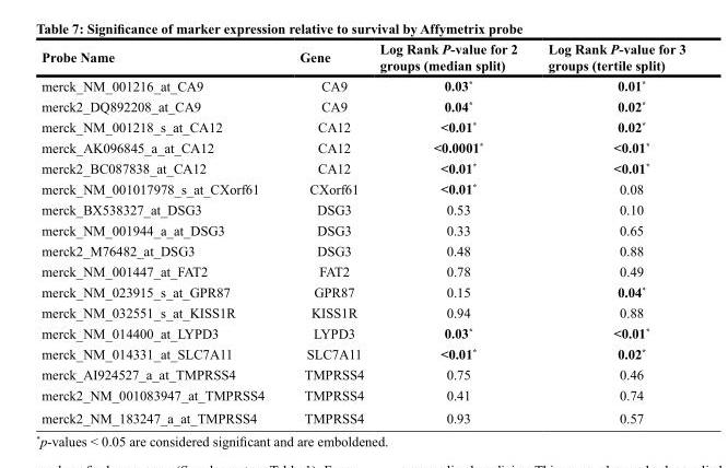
<table><thead><tr><td>Probe Name</td><td>Gene</td><td>Log Rank P-value for 2 groups (median split)</td><td>Log Rank P-value for 3 groups (tertile split)</td></tr></thead><tbody><tr><td>merck_NM_001216_at_CA9</td><td>CA9</td><td>0.03*</td><td>0.01*</td></tr><tr><td>merck2_DQ892208_at_CA9</td><td>CA9</td><td>0.04*</td><td>0.02*</td></tr><tr><td>merck_NM_001218_s_at_CA12</td><td>CA12</td><td>&lt;0.01*</td><td>0.02*</td></tr><tr><td>merck_AK096845_a_at_CA12</td><td>CA12</td><td>&lt;0.0001*</td><td>&lt;0.01*</td></tr><tr><td>merck2_BC087838_at_CA12</td><td>CA12</td><td>&lt;0.01*</td><td>&lt;0.01*</td></tr><tr><td>merck_NM_001017978_s_at_CXorf61</td><td>CXorf61</td><td>&lt;0.01*</td><td>0.08</td></tr><tr><td>merck_BX538327_at_DSG3</td><td>DSG3</td><td>0.53</td><td>0.10</td></tr><tr><td>merck_NM_001944_a_at_DSG3</td><td>DSG3</td><td>0.33</td><td>0.65</td></tr><tr><td>merck2_M76482_at_DSG3</td><td>DSG3</td><td>0.48</td><td>0.88</td></tr><tr><td>merck_NM_001447_at_FAT2</td><td>FAT2</td><td>0.78</td><td>0.49</td></tr><tr><td>merck_NM_023915_s_at_GPR87</td><td>GPR87</td><td>0.15</td><td>0.04*</td></tr><tr><td>merck_NM_032551_s_at_KISS1R</td><td>KISS1R</td><td>0.94</td><td>0.88</td></tr><tr><td>merck_NM_014400_at_LYPD3</td><td>LYPD3</td><td>0.03*</td><td>&lt;0.01*</td></tr><tr><td>merck_NM_014331_at_SLC7A11</td><td>SLC7A11</td><td>&lt;0.01*</td><td>0.02*</td></tr><tr><td>merck_AI924527_a_at_TMPRSS4</td><td>TMPRSS4</td><td>0.75</td><td>0.46</td></tr><tr><td>merck2_NM_001083947_at_TMPRSS4</td><td>TMPRSS4</td><td>0.41</td><td>0.74</td></tr><tr><td>merck2_NM_183247_a_at_TMPRSS4</td><td>TMPRSS4</td><td>0.93</td><td>0.57</td></tr></tbody></table>